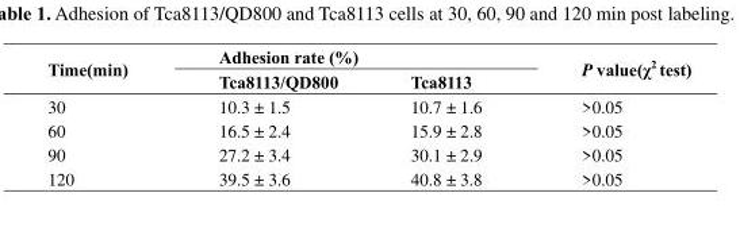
<table><thead><tr><td rowspan="2">Time(min)</td><td colspan="2">Adhesion rate (%)</td><td rowspan="2">P value(χ<sup>2</sup> test)</td></tr><tr><td>Tca8113/QD800</td><td>Tca8113</td></tr></thead><tbody><tr><td>30</td><td>10.3 ± 1.5</td><td>10.7 ± 1.6</td><td>&gt;0.05</td></tr><tr><td>60</td><td>16.5 ± 2.4</td><td>15.9 ± 2.8</td><td>&gt;0.05</td></tr><tr><td>90</td><td>27.2 ± 3.4</td><td>30.1 ± 2.9</td><td>&gt;0.05</td></tr><tr><td>120</td><td>39.5 ± 3.6</td><td>40.8 ± 3.8</td><td>&gt;0.05</td></tr></tbody></table>